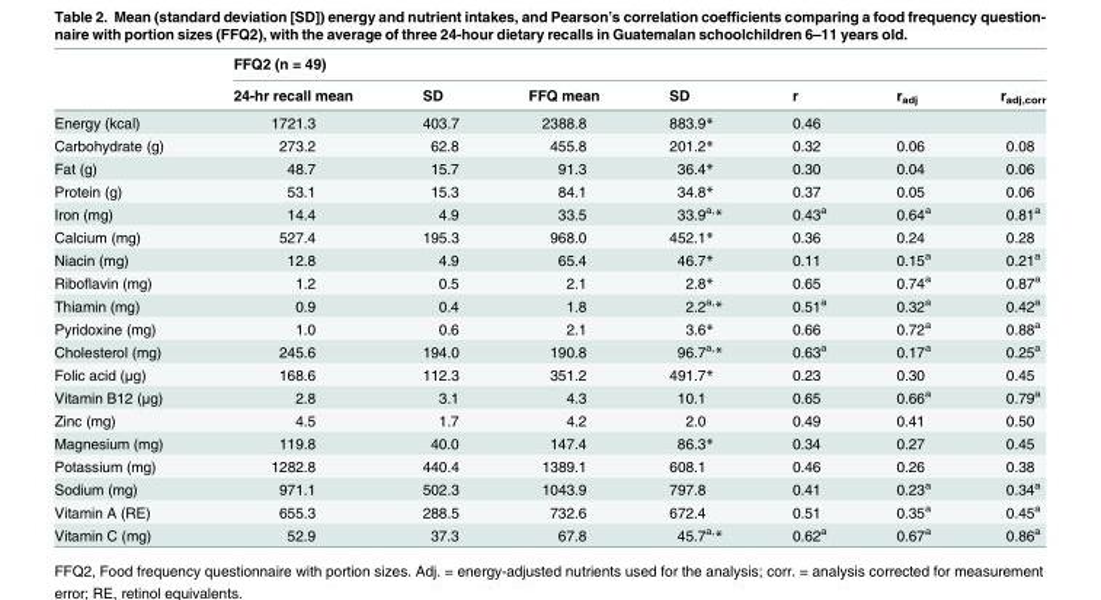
<table><thead><tr><td rowspan="2"></td><td colspan="7">FFQ2 (n = 49)</td></tr><tr><td>24-hr recall mean</td><td>SD</td><td>FFQ mean</td><td>SD</td><td>r</td><td>r<sub>adj</sub></td><td>r<sub>adj,corr</sub></td></tr></thead><tbody><tr><td>Energy (kcal)</td><td>1721.3</td><td>403.7</td><td>2388.8</td><td>883.9*</td><td>0.46</td><td></td><td></td></tr><tr><td>Carbohydrate (g)</td><td>273.2</td><td>62.8</td><td>455.8</td><td>201.2*</td><td>0.32</td><td>0.06</td><td>0.08</td></tr><tr><td>Fat (g)</td><td>48.7</td><td>15.7</td><td>91.3</td><td>36.4*</td><td>0.30</td><td>0.04</td><td>0.06</td></tr><tr><td>Protein (g)</td><td>53.1</td><td>15.3</td><td>84.1</td><td>34.8*</td><td>0.37</td><td>0.05</td><td>0.06</td></tr><tr><td>Iron (mg)</td><td>14.4</td><td>4.9</td><td>33.5</td><td>33.9<sup>a,</sup>*</td><td>0.43<sup>a</sup></td><td>0.64<sup>a</sup></td><td>0.81<sup>a</sup></td></tr><tr><td>Calcium (mg)</td><td>527.4</td><td>195.3</td><td>968.0</td><td>452.1*</td><td>0.36</td><td>0.24</td><td>0.28</td></tr><tr><td>Niacin (mg)</td><td>12.8</td><td>4.9</td><td>65.4</td><td>46.7*</td><td>0.11</td><td>0.15<sup>a</sup></td><td>0.21<sup>a</sup></td></tr><tr><td>Riboflavin (mg)</td><td>1.2</td><td>0.5</td><td>2.1</td><td>2.8*</td><td>0.65</td><td>0.74<sup>a</sup></td><td>0.87<sup>a</sup></td></tr><tr><td>Thiamin (mg)</td><td>0.9</td><td>0.4</td><td>1.8</td><td>2.2<sup>a,</sup>*</td><td>0.51<sup>a</sup></td><td>0.32<sup>a</sup></td><td>0.42<sup>a</sup></td></tr><tr><td>Pyridoxine (mg)</td><td>1.0</td><td>0.6</td><td>2.1</td><td>3.6*</td><td>0.66</td><td>0.72<sup>a</sup></td><td>0.88<sup>a</sup></td></tr><tr><td>Cholesterol (mg)</td><td>245.6</td><td>194.0</td><td>190.8</td><td>96.7<sup>a,</sup>*</td><td>0.63<sup>a</sup></td><td>0.17<sup>a</sup></td><td>0.25<sup>a</sup></td></tr><tr><td>Folic acid (μg)</td><td>168.6</td><td>112.3</td><td>351.2</td><td>491.7*</td><td>0.23</td><td>0.30</td><td>0.45</td></tr><tr><td>Vitamin B12 (μg)</td><td>2.8</td><td>3.1</td><td>4.3</td><td>10.1</td><td>0.65</td><td>0.66<sup>a</sup></td><td>0.79<sup>a</sup></td></tr><tr><td>Zinc (mg)</td><td>4.5</td><td>1.7</td><td>4.2</td><td>2.0</td><td>0.49</td><td>0.41</td><td>0.50</td></tr><tr><td>Magnesium (mg)</td><td>119.8</td><td>40.0</td><td>147.4</td><td>86.3*</td><td>0.34</td><td>0.27</td><td>0.45</td></tr><tr><td>Potassium (mg)</td><td>1282.8</td><td>440.4</td><td>1389.1</td><td>608.1</td><td>0.46</td><td>0.26</td><td>0.38</td></tr><tr><td>Sodium (mg)</td><td>971.1</td><td>502.3</td><td>1043.9</td><td>797.8</td><td>0.41</td><td>0.23<sup>a</sup></td><td>0.34<sup>a</sup></td></tr><tr><td>Vitamin A (RE)</td><td>655.3</td><td>288.5</td><td>732.6</td><td>672.4</td><td>0.51</td><td>0.35<sup>a</sup></td><td>0.45<sup>a</sup></td></tr><tr><td>Vitamin C (mg)</td><td>52.9</td><td>37.3</td><td>67.8</td><td>45.7<sup>a,</sup>*</td><td>0.62<sup>a</sup></td><td>0.67<sup>a</sup></td><td>0.86<sup>a</sup></td></tr></tbody></table>